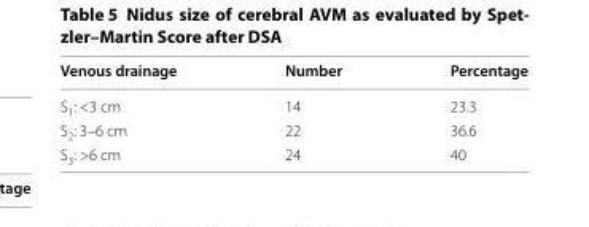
<table><thead><tr><td>Venous drainage</td><td>Number</td><td>Percentage</td></tr></thead><tbody><tr><td>S<sub>1</sub>: &lt;3 cm</td><td>14</td><td>23.3</td></tr><tr><td>S<sub>2</sub>: 3–6 cm</td><td>22</td><td>36.6</td></tr><tr><td>S<sub>3</sub>: &gt;6 cm</td><td>24</td><td>40</td></tr></tbody></table>